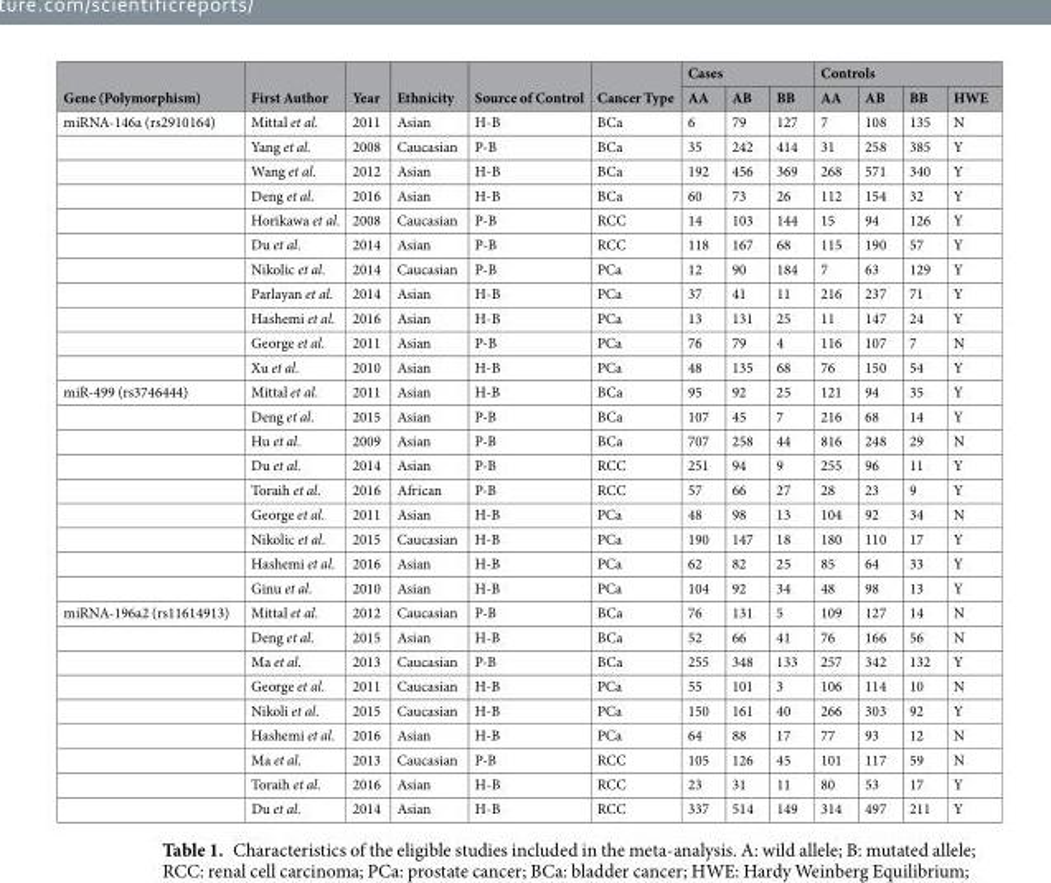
<table><thead><tr><td rowspan="2">Gene (Polymorphism)</td><td rowspan="2">First Author</td><td rowspan="2">Year</td><td rowspan="2">Ethnicity</td><td rowspan="2">Source of Control</td><td rowspan="2">Cancer Type</td><td colspan="3">Cases</td><td colspan="4">Controls</td></tr><tr><td>AA</td><td>AB</td><td>BB</td><td>AA</td><td>AB</td><td>BB</td><td>HWE</td></tr></thead><tbody><tr><td rowspan="11">miRNA-146a (rs2910164)</td><td>Mittal et al.</td><td>2011</td><td>Asian</td><td>H-B</td><td>BCa</td><td>6</td><td>79</td><td>127</td><td>7</td><td>108</td><td>135</td><td>N</td></tr><tr><td>Yang et al.</td><td>2008</td><td>Caucasian</td><td>P-B</td><td>BCa</td><td>35</td><td>242</td><td>414</td><td>31</td><td>258</td><td>385</td><td>Y</td></tr><tr><td>Wang et al.</td><td>2012</td><td>Asian</td><td>H-B</td><td>BCa</td><td>192</td><td>456</td><td>369</td><td>268</td><td>571</td><td>340</td><td>Y</td></tr><tr><td>Deng et al.</td><td>2016</td><td>Asian</td><td>H-B</td><td>BCa</td><td>60</td><td>73</td><td>26</td><td>112</td><td>154</td><td>32</td><td>Y</td></tr><tr><td>Horikawa et al.</td><td>2008</td><td>Caucasian</td><td>P-B</td><td>RCC</td><td>14</td><td>103</td><td>144</td><td>15</td><td>94</td><td>126</td><td>Y</td></tr><tr><td>Du et al.</td><td>2014</td><td>Asian</td><td>P-B</td><td>RCC</td><td>118</td><td>167</td><td>68</td><td>115</td><td>190</td><td>57</td><td>Y</td></tr><tr><td>Nikolic et al.</td><td>2014</td><td>Caucasian</td><td>P-B</td><td>PCa</td><td>12</td><td>90</td><td>184</td><td>7</td><td>63</td><td>129</td><td>Y</td></tr><tr><td>Parlayan et al.</td><td>2014</td><td>Asian</td><td>H-B</td><td>PCa</td><td>37</td><td>41</td><td>11</td><td>216</td><td>237</td><td>71</td><td>Y</td></tr><tr><td>Hashemi et al.</td><td>2016</td><td>Asian</td><td>H-B</td><td>PCa</td><td>13</td><td>131</td><td>25</td><td>11</td><td>147</td><td>24</td><td>Y</td></tr><tr><td>George et al.</td><td>2011</td><td>Asian</td><td>P-B</td><td>PCa</td><td>76</td><td>79</td><td>4</td><td>116</td><td>107</td><td>7</td><td>N</td></tr><tr><td>Xu et al.</td><td>2010</td><td>Asian</td><td>H-B</td><td>PCa</td><td>48</td><td>135</td><td>68</td><td>76</td><td>150</td><td>54</td><td>Y</td></tr><tr><td rowspan="9">miR-499 (rs3746444)</td><td>Mittal et al.</td><td>2011</td><td>Asian</td><td>H-B</td><td>BCa</td><td>95</td><td>92</td><td>25</td><td>121</td><td>94</td><td>35</td><td>Y</td></tr><tr><td>Deng et al.</td><td>2015</td><td>Asian</td><td>P-B</td><td>BCa</td><td>107</td><td>45</td><td>7</td><td>216</td><td>68</td><td>14</td><td>Y</td></tr><tr><td>Hu et al.</td><td>2009</td><td>Asian</td><td>P-B</td><td>BCa</td><td>707</td><td>258</td><td>44</td><td>816</td><td>248</td><td>29</td><td>N</td></tr><tr><td>Du et al.</td><td>2014</td><td>Asian</td><td>P-B</td><td>RCC</td><td>251</td><td>94</td><td>9</td><td>255</td><td>96</td><td>11</td><td>Y</td></tr><tr><td>Toraih et al.</td><td>2016</td><td>African</td><td>P-B</td><td>RCC</td><td>57</td><td>66</td><td>27</td><td>28</td><td>23</td><td>9</td><td>Y</td></tr><tr><td>George et al.</td><td>2011</td><td>Asian</td><td>H-B</td><td>PCa</td><td>48</td><td>98</td><td>13</td><td>104</td><td>92</td><td>34</td><td>N</td></tr><tr><td>Nikolic et al.</td><td>2015</td><td>Caucasian</td><td>H-B</td><td>PCa</td><td>190</td><td>147</td><td>18</td><td>180</td><td>110</td><td>17</td><td>Y</td></tr><tr><td>Hashemi et al.</td><td>2016</td><td>Asian</td><td>H-B</td><td>PCa</td><td>62</td><td>82</td><td>25</td><td>85</td><td>64</td><td>33</td><td>Y</td></tr><tr><td>Ginu et al.</td><td>2010</td><td>Asian</td><td>H-B</td><td>PCa</td><td>104</td><td>92</td><td>34</td><td>48</td><td>98</td><td>13</td><td>Y</td></tr><tr><td rowspan="9">miRNA-196a2 (rs11614913)</td><td>Mittal et al.</td><td>2012</td><td>Caucasian</td><td>P-B</td><td>BCa</td><td>76</td><td>131</td><td>5</td><td>109</td><td>127</td><td>14</td><td>N</td></tr><tr><td>Deng et al.</td><td>2015</td><td>Asian</td><td>H-B</td><td>BCa</td><td>52</td><td>66</td><td>41</td><td>76</td><td>166</td><td>56</td><td>N</td></tr><tr><td>Ma et al.</td><td>2013</td><td>Caucasian</td><td>P-B</td><td>BCa</td><td>255</td><td>348</td><td>133</td><td>257</td><td>342</td><td>132</td><td>Y</td></tr><tr><td>George et al.</td><td>2011</td><td>Caucasian</td><td>H-B</td><td>PCa</td><td>55</td><td>101</td><td>3</td><td>106</td><td>114</td><td>10</td><td>N</td></tr><tr><td>Nikoli et al.</td><td>2015</td><td>Caucasian</td><td>H-B</td><td>PCa</td><td>150</td><td>161</td><td>40</td><td>266</td><td>303</td><td>92</td><td>Y</td></tr><tr><td>Hashemi et al.</td><td>2016</td><td>Asian</td><td>H-B</td><td>PCa</td><td>64</td><td>88</td><td>17</td><td>77</td><td>93</td><td>12</td><td>N</td></tr><tr><td>Ma et al.</td><td>2013</td><td>Caucasian</td><td>P-B</td><td>RCC</td><td>105</td><td>126</td><td>45</td><td>101</td><td>117</td><td>59</td><td>N</td></tr><tr><td>Toraih et al.</td><td>2016</td><td>Asian</td><td>H-B</td><td>RCC</td><td>23</td><td>31</td><td>11</td><td>80</td><td>53</td><td>17</td><td>Y</td></tr><tr><td>Du et al.</td><td>2014</td><td>Asian</td><td>H-B</td><td>RCC</td><td>337</td><td>514</td><td>149</td><td>314</td><td>497</td><td>211</td><td>Y</td></tr></tbody></table>